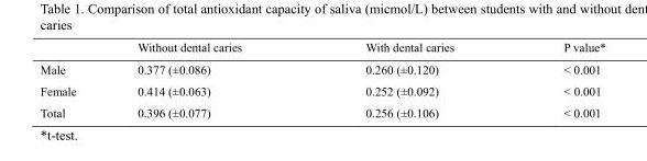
<table><thead><tr><td></td><td>Without dental caries</td><td>With dental caries</td><td>P value*</td></tr></thead><tbody><tr><td>Male</td><td>0.377 (±0.086)</td><td>0.260 (±0.120)</td><td>&lt; 0.001</td></tr><tr><td>Female</td><td>0.414 (±0.063)</td><td>0.252 (±0.092)</td><td>&lt; 0.001</td></tr><tr><td>Total</td><td>0.396 (±0.077)</td><td>0.256 (±0.106)</td><td>&lt; 0.001</td></tr></tbody></table>